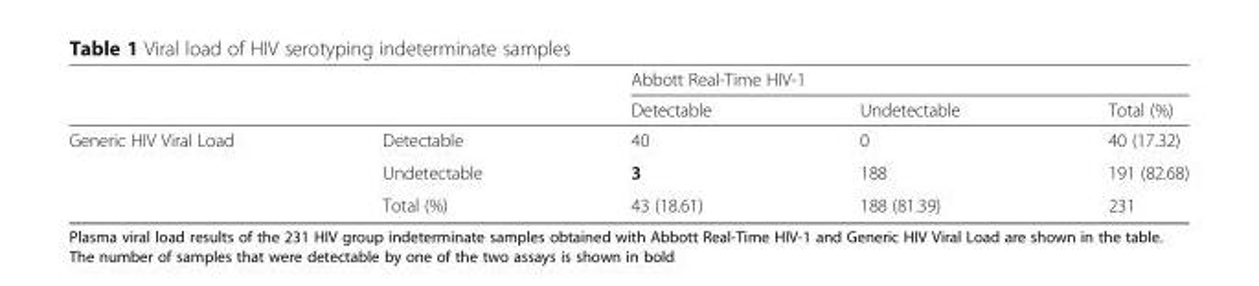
<table><thead><tr><td rowspan="2"></td><td rowspan="2"></td><td colspan="3">Abbott Real-Time HIV-1</td></tr><tr><td>Detectable</td><td>Undetectable</td><td>Total (%)</td></tr></thead><tbody><tr><td rowspan="3">Generic HIV Viral Load</td><td>Detectable</td><td>40</td><td>0</td><td>40 (17.32)</td></tr><tr><td>Undetectable</td><td>3</td><td>188</td><td>191 (82.68)</td></tr><tr><td>Total (%)</td><td>43 (18.61)</td><td>188 (81.39)</td><td>231</td></tr></tbody></table>